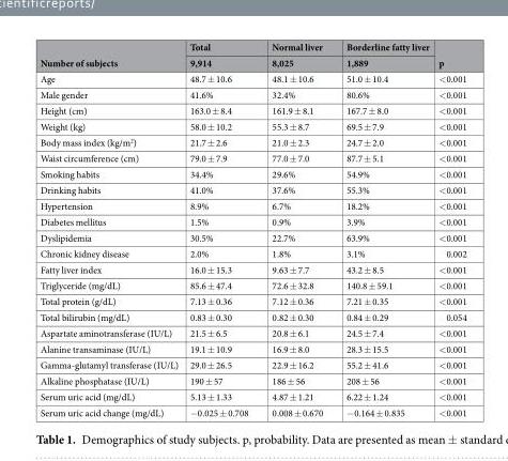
<table><thead><tr><td rowspan="2">Number of subjects</td><td rowspan="2">Total 9,914</td><td rowspan="2">Normal liver 8,025</td><td rowspan="2">Borderline fatty liver 1,889</td><td rowspan="2">p</td></tr><tr></tr></thead><tbody><tr><td>Age</td><td>48.7 ± 10.6</td><td>48.1 ± 10.6</td><td>51.0 ± 10.4</td><td>&lt;0.001</td></tr><tr><td>Male gender</td><td>41.6%</td><td>32.4%</td><td>80.6%</td><td>&lt;0.001</td></tr><tr><td>Height (cm)</td><td>163.0 ± 8.4</td><td>161.9 ± 8.1</td><td>167.7 ± 8.0</td><td>&lt;0.001</td></tr><tr><td>Weight (kg)</td><td>58.0 ± 10.2</td><td>55.3 ± 8.7</td><td>69.5 ± 7.9</td><td>&lt;0.001</td></tr><tr><td>Body mass index (kg/m<sup>2</sup>)</td><td>21.7 ± 2.6</td><td>21.0 ± 2.3</td><td>24.7 ± 2.0</td><td>&lt;0.001</td></tr><tr><td>Waist circumference (cm)</td><td>79.0 ± 7.9</td><td>77.0 ± 7.0</td><td>87.7 ± 5.1</td><td>&lt;0.001</td></tr><tr><td>Smoking habits</td><td>34.4%</td><td>29.6%</td><td>54.9%</td><td>&lt;0.001</td></tr><tr><td>Drinking habits</td><td>41.0%</td><td>37.6%</td><td>55.3%</td><td>&lt;0.001</td></tr><tr><td>Hypertension</td><td>8.9%</td><td>6.7%</td><td>18.2%</td><td>&lt;0.001</td></tr><tr><td>Diabetes mellitus</td><td>1.5%</td><td>0.9%</td><td>3.9%</td><td>&lt;0.001</td></tr><tr><td>Dyslipidemia</td><td>30.5%</td><td>22.7%</td><td>63.9%</td><td>&lt;0.001</td></tr><tr><td>Chronic kidney disease</td><td>2.0%</td><td>1.8%</td><td>3.1%</td><td>0.002</td></tr><tr><td>Fatty liver index</td><td>16.0 ± 15.3</td><td>9.63 ± 7.7</td><td>43.2 ± 8.5</td><td>&lt;0.001</td></tr><tr><td>Triglyceride (mg/dL)</td><td>85.6 ± 47.4</td><td>72.6 ± 32.8</td><td>140.8 ± 59.1</td><td>&lt;0.001</td></tr><tr><td>Total protein (g/dL)</td><td>7.13 ± 0.36</td><td>7.12 ± 0.36</td><td>7.21 ± 0.35</td><td>&lt;0.001</td></tr><tr><td>Total bilirubin (mg/dL)</td><td>0.83 ± 0.30</td><td>0.82 ± 0.30</td><td>0.84 ± 0.29</td><td>0.054</td></tr><tr><td>Aspartate aminotransferase (IU/L)</td><td>21.5 ± 6.5</td><td>20.8 ± 6.1</td><td>24.5 ± 7.4</td><td>&lt;0.001</td></tr><tr><td>Alanine transaminase (IU/L)</td><td>19.1 ± 10.9</td><td>16.9 ± 8.0</td><td>28.3 ± 15.5</td><td>&lt;0.001</td></tr><tr><td>Gamma-glutamyl transferase (IU/L)</td><td>29.0 ± 26.5</td><td>22.9 ± 16.2</td><td>55.2 ± 41.6</td><td>&lt;0.001</td></tr><tr><td>Alkaline phosphatase (IU/L)</td><td>190 ± 57</td><td>186 ± 56</td><td>208 ± 56</td><td>&lt;0.001</td></tr><tr><td>Serum uric acid (mg/dL)</td><td>5.13 ± 1.33</td><td>4.87 ± 1.21</td><td>6.22 ± 1.24</td><td>&lt;0.001</td></tr><tr><td>Serum uric acid change (mg/dL)</td><td>−0.025 ± 0.708</td><td>0.008 ± 0.670</td><td>−0.164 ± 0.835</td><td>&lt;0.001</td></tr></tbody></table>